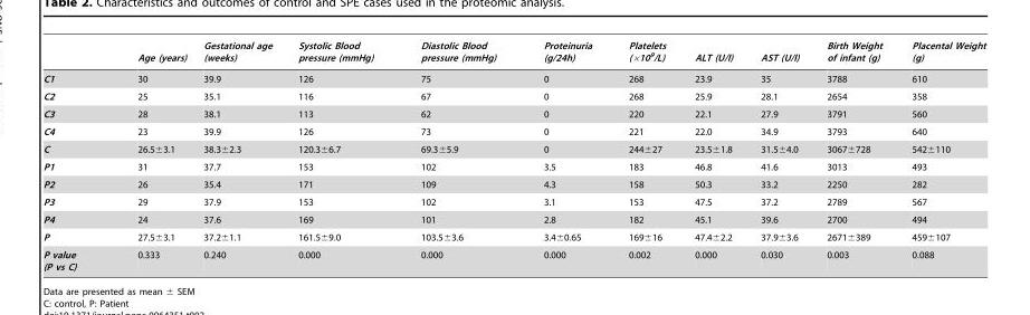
<table><thead><tr><td></td><td>Age (years)</td><td>Gestational age (weeks)</td><td>Systolic Blood pressure (mmHg)</td><td>Diastolic Blood pressure (mmHg)</td><td>Proteinuria (g/24h)</td><td>Platelets (×10<sup>9</sup>/L)</td><td>ALT (U/l)</td><td>AST (U/l)</td><td>Birth Weight of infant (g)</td><td>Placental Weight (g)</td></tr></thead><tbody><tr><td>C1</td><td>30</td><td>39.9</td><td>126</td><td>75</td><td>0</td><td>268</td><td>23.9</td><td>35</td><td>3788</td><td>610</td></tr><tr><td>C2</td><td>25</td><td>35.1</td><td>116</td><td>67</td><td>0</td><td>268</td><td>25.9</td><td>28.1</td><td>2654</td><td>358</td></tr><tr><td>C3</td><td>28</td><td>38.1</td><td>113</td><td>62</td><td>0</td><td>220</td><td>22.1</td><td>27.9</td><td>3791</td><td>560</td></tr><tr><td>C4</td><td>23</td><td>39.9</td><td>126</td><td>73</td><td>0</td><td>221</td><td>22.0</td><td>34.9</td><td>3793</td><td>640</td></tr><tr><td>C</td><td>26.5±3.1</td><td>38.3±2.3</td><td>120.3±6.7</td><td>69.3±5.9</td><td>0</td><td>244±27</td><td>23.5±1.8</td><td>31.5±4.0</td><td>3067±728</td><td>542±110</td></tr><tr><td>P1</td><td>31</td><td>37.7</td><td>153</td><td>102</td><td>3.5</td><td>183</td><td>46.8</td><td>41.6</td><td>3013</td><td>493</td></tr><tr><td>P2</td><td>26</td><td>35.4</td><td>171</td><td>109</td><td>4.3</td><td>158</td><td>50.3</td><td>33.2</td><td>2250</td><td>282</td></tr><tr><td>P3</td><td>29</td><td>37.9</td><td>153</td><td>102</td><td>3.1</td><td>153</td><td>47.5</td><td>37.2</td><td>2789</td><td>567</td></tr><tr><td>P4</td><td>24</td><td>37.6</td><td>169</td><td>101</td><td>2.8</td><td>182</td><td>45.1</td><td>39.6</td><td>2700</td><td>494</td></tr><tr><td>P</td><td>27.5±3.1</td><td>37.2±1.1</td><td>161.5±9.0</td><td>103.5±3.6</td><td>3.4±0.65</td><td>169±16</td><td>47.4±2.2</td><td>37.9±3.6</td><td>2671±389</td><td>459±107</td></tr><tr><td>P value (P vs C)</td><td>0.333</td><td>0.240</td><td>0.000</td><td>0.000</td><td>0.000</td><td>0.002</td><td>0.000</td><td>0.030</td><td>0.003</td><td>0.088</td></tr></tbody></table>